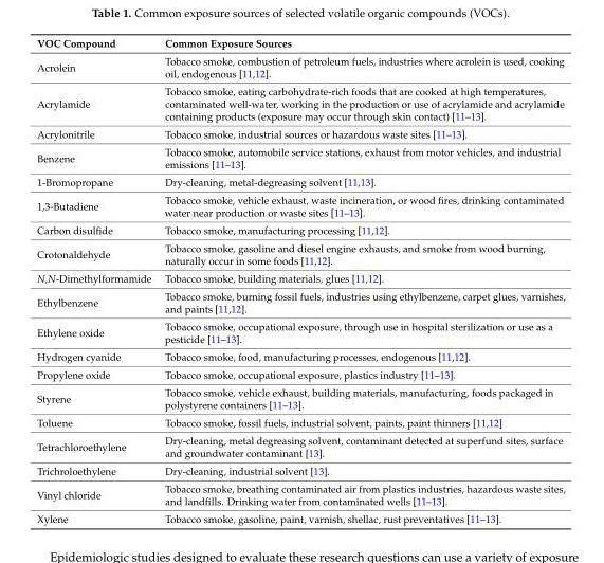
<table><thead><tr><td>VOC Compound</td><td>Common Exposure Sources</td></tr></thead><tbody><tr><td>Acrolein</td><td>Tobacco smoke, combustion of petroleum fuels, industries where acrolein is used, cooking oil, endogenous [11,12].</td></tr><tr><td>Acrylamide</td><td>Tobacco smoke, eating carbohydrate-rich foods that are cooked at high temperatures, contaminated well-water, working in the production or use of acrylamide and acrylamide containing products (exposure may occur through skin contact) [11–13].</td></tr><tr><td>Acrylonitrile</td><td>Tobacco smoke, industrial sources or hazardous waste sites [11–13].</td></tr><tr><td>Benzene</td><td>Tobacco smoke, automobile service stations, exhaust from motor vehicles, and industrial emissions [11–13].</td></tr><tr><td>1-Bromopropane</td><td>Dry-cleaning, metal-degreasing solvent [11,13].</td></tr><tr><td>1,3-Butadiene</td><td>Tobacco smoke, vehicle exhaust, waste incineration, or wood fires, drinking contaminated water near production or waste sites [11–13].</td></tr><tr><td>Carbon disulfide</td><td>Tobacco smoke, manufacturing processing [11,12].</td></tr><tr><td>Crotonaldehyde</td><td>Tobacco smoke, gasoline and diesel engine exhausts, and smoke from wood burning, naturally occur in some foods [11,12].</td></tr><tr><td>N,N-Dimethylformamide</td><td>Tobacco smoke, building materials, glues [11,12].</td></tr><tr><td>Ethylbenzene</td><td>Tobacco smoke, burning fossil fuels, industries using ethylbenzene, carpet glues, varnishes, and paints [11,12].</td></tr><tr><td>Ethylene oxide</td><td>Tobacco smoke, occupational exposure, through use in hospital sterilization or use as a pesticide [11–13].</td></tr><tr><td>Hydrogen cyanide</td><td>Tobacco smoke, food, manufacturing processes, endogenous [11,12].</td></tr><tr><td>Propylene oxide</td><td>Tobacco smoke, occupational exposure, plastics industry [11–13].</td></tr><tr><td>Styrene</td><td>Tobacco smoke, vehicle exhaust, building materials, manufacturing, foods packaged in polystyrene containers [11–13].</td></tr><tr><td>Toluene</td><td>Tobacco smoke, fossil fuels, industrial solvent, paints, paint thinners [11,12]</td></tr><tr><td>Tetrachloroethylene</td><td>Dry-cleaning, metal degreasing solvent, contaminant detected at superfund sites, surface and groundwater contaminant [13].</td></tr><tr><td>Trichroloethylene</td><td>Dry-cleaning, industrial solvent [13].</td></tr><tr><td>Vinyl chloride</td><td>Tobacco smoke, breathing contaminated air from plastics industries, hazardous waste sites, and landfills. Drinking water from contaminated wells [11–13].</td></tr><tr><td>Xylene</td><td>Tobacco smoke, gasoline, paint, varnish, shellac, rust preventatives [11–13].</td></tr></tbody></table>